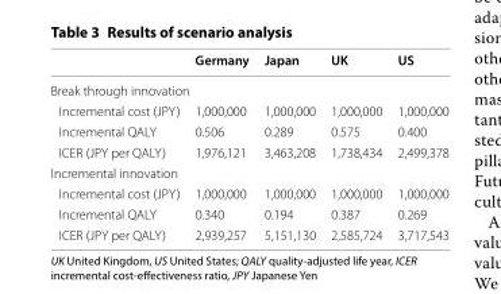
<table><thead><tr><td></td><td>Germany</td><td>Japan</td><td>UK</td><td>US</td></tr></thead><tbody><tr><td colspan="5">Break through innovation</td></tr><tr><td>Incremental cost (JPY)</td><td>1,000,000</td><td>1,000,000</td><td>1,000,000</td><td>1,000,000</td></tr><tr><td>Incremental QALY</td><td>0.506</td><td>0.289</td><td>0.575</td><td>0.400</td></tr><tr><td>ICER (JPY per QALY)</td><td>1,976,121</td><td>3,463,208</td><td>1,738,434</td><td>2,499,378</td></tr><tr><td colspan="5">Incremental innovation</td></tr><tr><td>Incremental cost (JPY)</td><td>1,000,000</td><td>1,000,000</td><td>1,000,000</td><td>1,000,000</td></tr><tr><td>Incremental QALY</td><td>0.340</td><td>0.194</td><td>0.387</td><td>0.269</td></tr><tr><td>ICER (JPY per QALY)</td><td>2,939,257</td><td>5,151,130</td><td>2,585,724</td><td>3,717,543</td></tr></tbody></table>